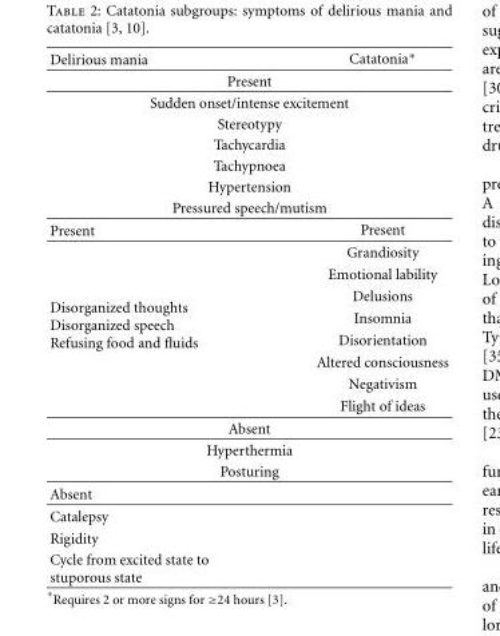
<table><thead><tr><td>Delirious mania</td><td>Catatonia∗</td></tr></thead><tbody><tr><td colspan="2">Present</td></tr><tr><td colspan="2">Sudden onset/intense excitement</td></tr><tr><td colspan="2">Stereotypy</td></tr><tr><td colspan="2">Tachycardia</td></tr><tr><td colspan="2">Tachypnoea</td></tr><tr><td colspan="2">Hypertension</td></tr><tr><td colspan="2">Pressured speech/mutism</td></tr><tr><td>Present</td><td>Present</td></tr><tr><td rowspan="8">Disorganized thoughts Disorganized speech Refusing food and fluids</td><td>Grandiosity</td></tr><tr><td>Emotional lability</td></tr><tr><td>Delusions</td></tr><tr><td>Insomnia</td></tr><tr><td>Disorientation</td></tr><tr><td>Altered consciousness</td></tr><tr><td>Negativism</td></tr><tr><td>Flight of ideas</td></tr><tr><td colspan="2">Absent</td></tr><tr><td colspan="2">Hyperthermia</td></tr><tr><td colspan="2">Posturing</td></tr><tr><td colspan="2">Absent</td></tr><tr><td colspan="2">Catalepsy</td></tr><tr><td colspan="2">Rigidity</td></tr><tr><td>Cycle from excited state to stuporous state</td><td></td></tr></tbody></table>